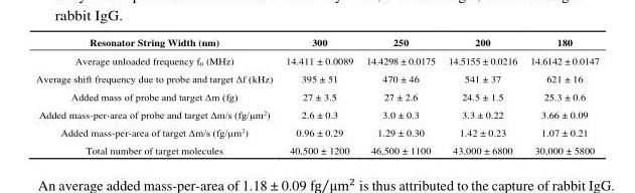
<table><thead><tr><td>Resonator String Width (nm)</td><td>300</td><td>250</td><td>200</td><td>180</td></tr></thead><tbody><tr><td>Average unloaded frequency f<sub>0</sub> (MHz)</td><td>14.411 ± 0.0089</td><td>14.4298 ± 0.0175</td><td>14.5155 ± 0.0216</td><td>14.6142 ± 0.0147</td></tr><tr><td>Average shift frequency due to probe and target Δf (kHz)</td><td>395 ± 51</td><td>470 ± 46</td><td>541 ± 37</td><td>621 ± 16</td></tr><tr><td>Added mass of probe and target Δm (fg)</td><td>27 ± 3.5</td><td>27 ± 2.6</td><td>24.5 ± 1.5</td><td>25.3 ± 0.6</td></tr><tr><td>Added mass-per-area of probe and target Δm/s (fg/µm<sup>2</sup>)</td><td>2.6 ± 0.3</td><td>3.0 ± 0.3</td><td>3.3 ± 0.22</td><td>3.66 ± 0.09</td></tr><tr><td>Added mass-per-area of target Δm/s (fg/µm<sup>2</sup>)</td><td>0.96 ± 0.29</td><td>1.29 ± 0.30</td><td>1.42 ± 0.23</td><td>1.07 ± 0.21</td></tr><tr><td>Total number of target molecules</td><td>40,500 ± 1200</td><td>46,500 ± 1100</td><td>43,000 ± 6800</td><td>30,000 ± 5800</td></tr></tbody></table>